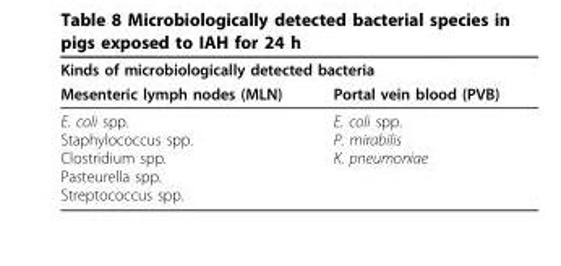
<table><thead><tr><td colspan="2">Kinds of microbiologically detected bacteria</td></tr><tr><td>Mesenteric lymph nodes (MLN)</td><td>Portal vein blood (PVB)</td></tr></thead><tbody><tr><td>E. coli spp. Staphylococcus spp. Clostridium spp. Pasteurella spp. Streptococcus spp.</td><td>E. coli spp. P. mirabilis K. pneumoniae</td></tr></tbody></table>